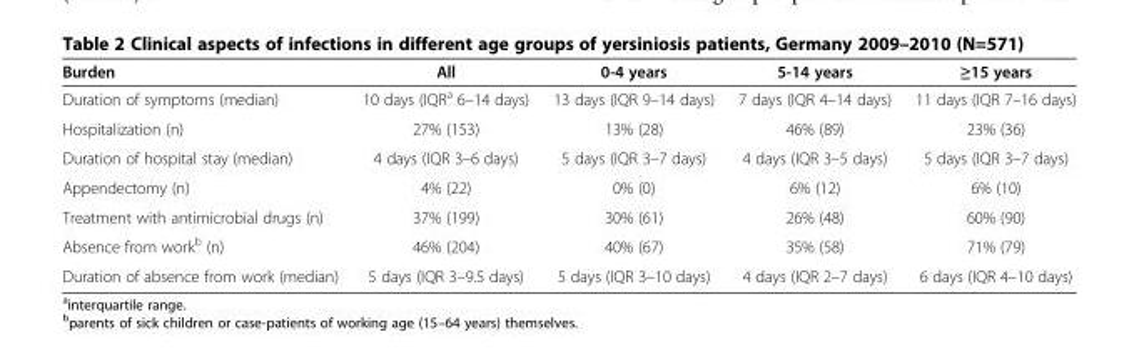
<table><thead><tr><td>Burden</td><td>All</td><td>0-4 years</td><td>5-14 years</td><td>≥15 years</td></tr></thead><tbody><tr><td>Duration of symptoms (median)</td><td>10 days (IQR<sup>a</sup> 6–14 days)</td><td>13 days (IQR 9–14 days)</td><td>7 days (IQR 4–14 days)</td><td>11 days (IQR 7–16 days)</td></tr><tr><td>Hospitalization (n)</td><td>27% (153)</td><td>13% (28)</td><td>46% (89)</td><td>23% (36)</td></tr><tr><td>Duration of hospital stay (median)</td><td>4 days (IQR 3–6 days)</td><td>5 days (IQR 3–7 days)</td><td>4 days (IQR 3–5 days)</td><td>5 days (IQR 3–7 days)</td></tr><tr><td>Appendectomy (n)</td><td>4% (22)</td><td>0% (0)</td><td>6% (12)</td><td>6% (10)</td></tr><tr><td>Treatment with antimicrobial drugs (n)</td><td>37% (199)</td><td>30% (61)</td><td>26% (48)</td><td>60% (90)</td></tr><tr><td>Absence from work<sup>b</sup> (n)</td><td>46% (204)</td><td>40% (67)</td><td>35% (58)</td><td>71% (79)</td></tr><tr><td>Duration of absence from work (median)</td><td>5 days (IQR 3–9.5 days)</td><td>5 days (IQR 3–10 days)</td><td>4 days (IQR 2–7 days)</td><td>6 days (IQR 4–10 days)</td></tr></tbody></table>